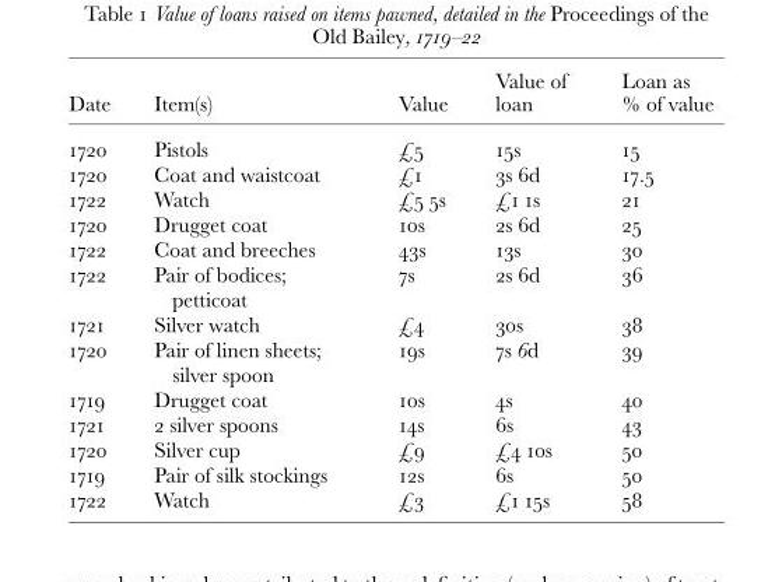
<table><thead><tr><td>Date</td><td>Item(s)</td><td>Value</td><td>Value of loan</td><td>Loan as % of value</td></tr></thead><tbody><tr><td>1720</td><td>Pistols</td><td>£5</td><td>15s</td><td>15</td></tr><tr><td>1720</td><td>Coat and waistcoat</td><td>£1</td><td>3s 6d</td><td>17.5</td></tr><tr><td>1722</td><td>Watch</td><td>£5 5s</td><td>£1 1s</td><td>21</td></tr><tr><td>1720</td><td>Drugget coat</td><td>10s</td><td>2s 6d</td><td>25</td></tr><tr><td>1722</td><td>Coat and breeches</td><td>43s</td><td>13s</td><td>30</td></tr><tr><td>1722</td><td>Pair of bodices; petticoat</td><td>7s</td><td>2s 6d</td><td>36</td></tr><tr><td>1721</td><td>Silver watch</td><td>£4</td><td>30s</td><td>38</td></tr><tr><td>1720</td><td>Pair of linen sheets; silver spoon</td><td>19s</td><td>7s 6d</td><td>39</td></tr><tr><td>1719</td><td>Drugget coat</td><td>10s</td><td>4s</td><td>40</td></tr><tr><td>1721</td><td>2 silver spoons</td><td>14s</td><td>6s</td><td>43</td></tr><tr><td>1720</td><td>Silver cup</td><td>£9</td><td>£4 10s</td><td>50</td></tr><tr><td>1719</td><td>Pair of silk stockings</td><td>12s</td><td>6s</td><td>50</td></tr><tr><td>1722</td><td>Watch</td><td>£3</td><td>£1 15s</td><td>58</td></tr></tbody></table>